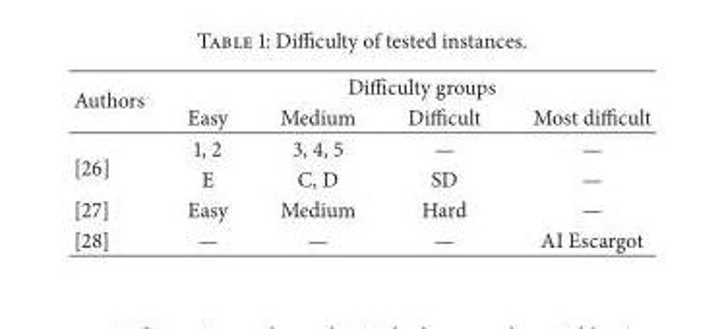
<table><thead><tr><td rowspan="2">Authors</td><td colspan="4">Difficulty groups</td></tr><tr><td>Easy</td><td>Medium</td><td>Difficult</td><td>Most difficult</td></tr></thead><tbody><tr><td rowspan="2">[26]</td><td>1, 2</td><td>3, 4, 5</td><td>—</td><td>—</td></tr><tr><td>E</td><td>C, D</td><td>SD</td><td>—</td></tr><tr><td>[27]</td><td>Easy</td><td>Medium</td><td>Hard</td><td>—</td></tr><tr><td>[28]</td><td>—</td><td>—</td><td>—</td><td>AI Escargot</td></tr></tbody></table>